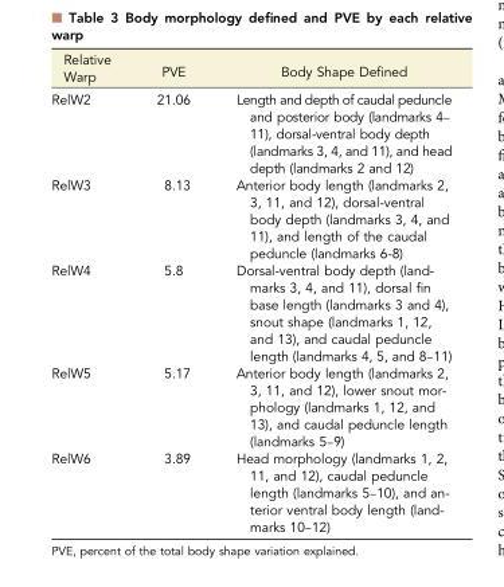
<table><thead><tr><td>Relative Warp</td><td>PVE</td><td>Body Shape Defined</td></tr></thead><tbody><tr><td>RelW2</td><td>21.06</td><td>Length and depth of caudal peduncle and posterior body (landmarks 4– 11), dorsal-ventral body depth (landmarks 3, 4, and 11), and head depth (landmarks 2 and 12)</td></tr><tr><td>RelW3</td><td>8.13</td><td>Anterior body length (landmarks 2, 3, 11, and 12), dorsal-ventral body depth (landmarks 3, 4, and 11), and length of the caudal peduncle (landmarks 6-8)</td></tr><tr><td>RelW4</td><td>5.8</td><td>Dorsal-ventral body depth (land- marks 3, 4, and 11), dorsal fin base length (landmarks 3 and 4), snout shape (landmarks 1, 12, and 13), and caudal peduncle length (landmarks 4, 5, and 8–11)</td></tr><tr><td>RelW5</td><td>5.17</td><td>Anterior body length (landmarks 2, 3, 11, and 12), lower snout mor- phology (landmarks 1, 12, and 13), and caudal peduncle length (landmarks 5–9)</td></tr><tr><td>RelW6</td><td>3.89</td><td>Head morphology (landmarks 1, 2, 11, and 12), caudal peduncle length (landmarks 5–10), and an- terior ventral body length (land- marks 10–12)</td></tr></tbody></table>